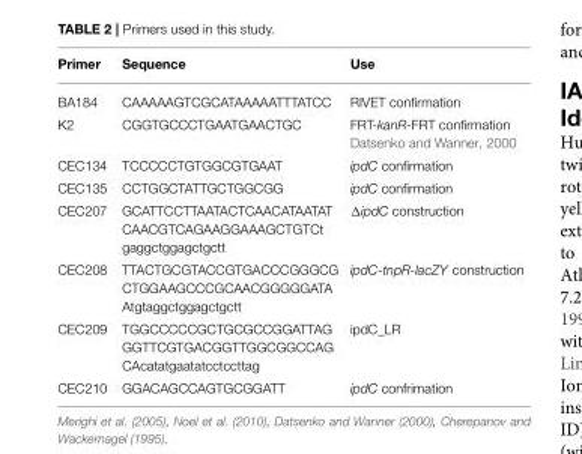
<table><thead><tr><td>Primer</td><td>Sequence</td><td>Use</td></tr></thead><tbody><tr><td>BA184</td><td>CAAAAAGTCGCATAAAAATTTATCC</td><td>RIVET confirmation</td></tr><tr><td>K2</td><td>CGGTGCCCTGAATGAACTGC</td><td>FRT-kanR-FRT confirmation Datsenko and Wanner, 2000</td></tr><tr><td>CEC134</td><td>TCCCCCTGTGGCGTGAAT</td><td>ipdC confirmation</td></tr><tr><td>CEC135</td><td>CCTGGCTATTGCTGGCGG</td><td>ipdC confirmation</td></tr><tr><td>CEC207</td><td>GCATTCCTTAATACTCAACATAATAT CAACGTCAGAAGGAAAGCTGTCt gaggctggagctgctt</td><td>ΔipdC construction</td></tr><tr><td>CEC208</td><td>TTACTGCGTACCGTGACCCGGGCG CTGGAAGCCCGCAACGGGGGATA Atgtaggctggagctgctt</td><td>ipdC-tnpR-lacZY construction</td></tr><tr><td>CEC209</td><td>TGGCCCCCGCTGCGCCGGATTAG GGTTCGTGACGGTTGGCGGCCAG CAcatatgaatatcctccttag</td><td>ipdC_LR</td></tr><tr><td>CEC210</td><td>GGACAGCCAGTGCGGATT</td><td>ipdC confrimation</td></tr></tbody></table>